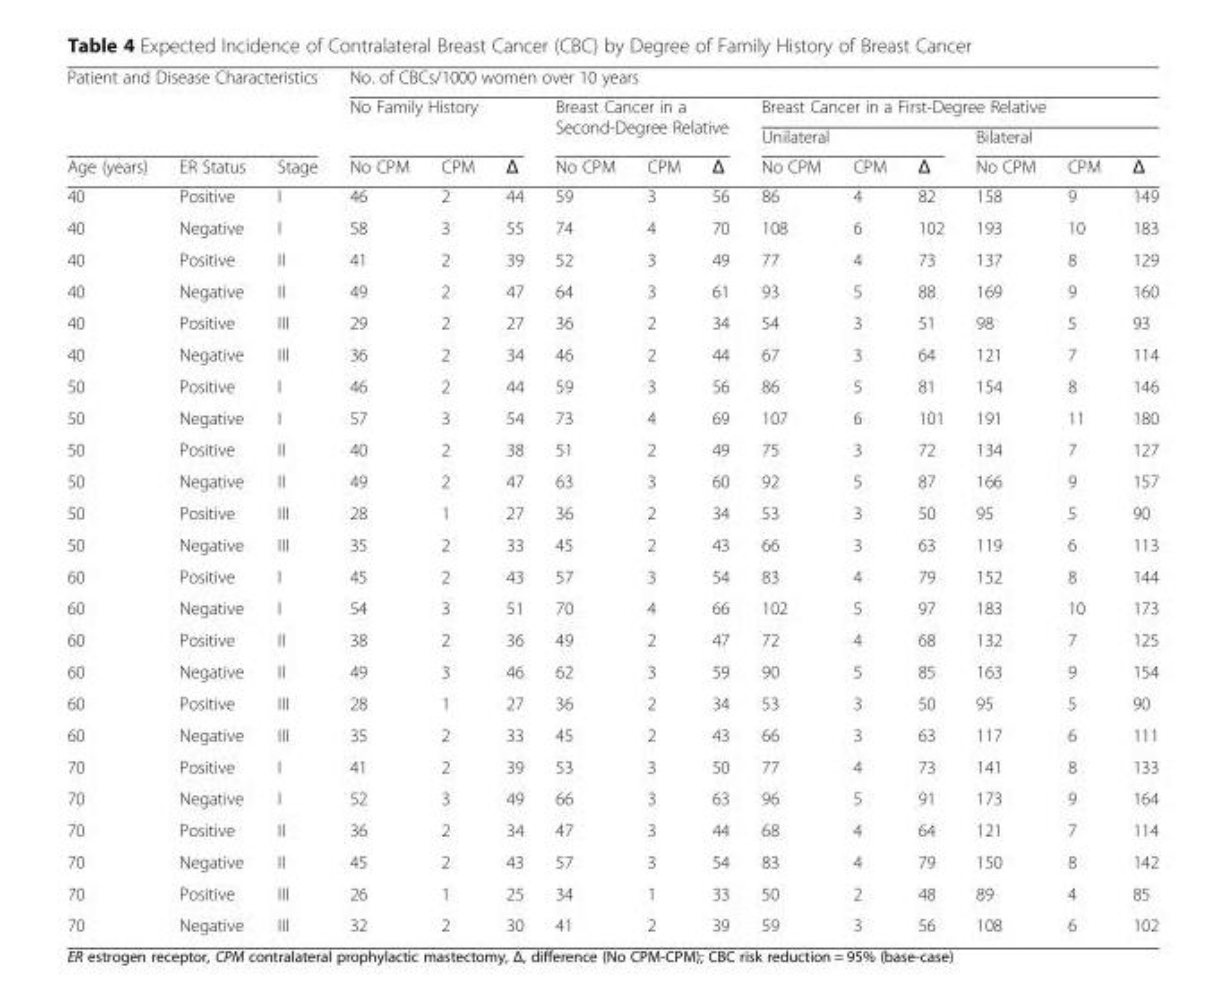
<table><thead><tr><td rowspan="3" colspan="3">Patient and Disease Characteristics</td><td colspan="12">No. of CBCs/1000 women over 10 years</td></tr><tr><td rowspan="2" colspan="3">No Family History</td><td rowspan="2" colspan="3">Breast Cancer in a Second-Degree Relative</td><td colspan="6">Breast Cancer in a First-Degree Relative</td></tr><tr><td colspan="3">Unilateral</td><td colspan="3">Bilateral</td></tr><tr><td>Age (years)</td><td>ER Status</td><td>Stage</td><td>No CPM</td><td>CPM</td><td>Δ</td><td>No CPM</td><td>CPM</td><td>Δ</td><td>No CPM</td><td>CPM</td><td>Δ</td><td>No CPM</td><td>CPM</td><td>Δ</td></tr></thead><tbody><tr><td>40</td><td>Positive</td><td>I</td><td>46</td><td>2</td><td>44</td><td>59</td><td>3</td><td>56</td><td>86</td><td>4</td><td>82</td><td>158</td><td>9</td><td>149</td></tr><tr><td>40</td><td>Negative</td><td>I</td><td>58</td><td>3</td><td>55</td><td>74</td><td>4</td><td>70</td><td>108</td><td>6</td><td>102</td><td>193</td><td>10</td><td>183</td></tr><tr><td>40</td><td>Positive</td><td>II</td><td>41</td><td>2</td><td>39</td><td>52</td><td>3</td><td>49</td><td>77</td><td>4</td><td>73</td><td>137</td><td>8</td><td>129</td></tr><tr><td>40</td><td>Negative</td><td>II</td><td>49</td><td>2</td><td>47</td><td>64</td><td>3</td><td>61</td><td>93</td><td>5</td><td>88</td><td>169</td><td>9</td><td>160</td></tr><tr><td>40</td><td>Positive</td><td>III</td><td>29</td><td>2</td><td>27</td><td>36</td><td>2</td><td>34</td><td>54</td><td>3</td><td>51</td><td>98</td><td>5</td><td>93</td></tr><tr><td>40</td><td>Negative</td><td>III</td><td>36</td><td>2</td><td>34</td><td>46</td><td>2</td><td>44</td><td>67</td><td>3</td><td>64</td><td>121</td><td>7</td><td>114</td></tr><tr><td>50</td><td>Positive</td><td>I</td><td>46</td><td>2</td><td>44</td><td>59</td><td>3</td><td>56</td><td>86</td><td>5</td><td>81</td><td>154</td><td>8</td><td>146</td></tr><tr><td>50</td><td>Negative</td><td>I</td><td>57</td><td>3</td><td>54</td><td>73</td><td>4</td><td>69</td><td>107</td><td>6</td><td>101</td><td>191</td><td>11</td><td>180</td></tr><tr><td>50</td><td>Positive</td><td>II</td><td>40</td><td>2</td><td>38</td><td>51</td><td>2</td><td>49</td><td>75</td><td>3</td><td>72</td><td>134</td><td>7</td><td>127</td></tr><tr><td>50</td><td>Negative</td><td>II</td><td>49</td><td>2</td><td>47</td><td>63</td><td>3</td><td>60</td><td>92</td><td>5</td><td>87</td><td>166</td><td>9</td><td>157</td></tr><tr><td>50</td><td>Positive</td><td>III</td><td>28</td><td>1</td><td>27</td><td>36</td><td>2</td><td>34</td><td>53</td><td>3</td><td>50</td><td>95</td><td>5</td><td>90</td></tr><tr><td>50</td><td>Negative</td><td>III</td><td>35</td><td>2</td><td>33</td><td>45</td><td>2</td><td>43</td><td>66</td><td>3</td><td>63</td><td>119</td><td>6</td><td>113</td></tr><tr><td>60</td><td>Positive</td><td>I</td><td>45</td><td>2</td><td>43</td><td>57</td><td>3</td><td>54</td><td>83</td><td>4</td><td>79</td><td>152</td><td>8</td><td>144</td></tr><tr><td>60</td><td>Negative</td><td>I</td><td>54</td><td>3</td><td>51</td><td>70</td><td>4</td><td>66</td><td>102</td><td>5</td><td>97</td><td>183</td><td>10</td><td>173</td></tr><tr><td>60</td><td>Positive</td><td>II</td><td>38</td><td>2</td><td>36</td><td>49</td><td>2</td><td>47</td><td>72</td><td>4</td><td>68</td><td>132</td><td>7</td><td>125</td></tr><tr><td>60</td><td>Negative</td><td>II</td><td>49</td><td>3</td><td>46</td><td>62</td><td>3</td><td>59</td><td>90</td><td>5</td><td>85</td><td>163</td><td>9</td><td>154</td></tr><tr><td>60</td><td>Positive</td><td>III</td><td>28</td><td>1</td><td>27</td><td>36</td><td>2</td><td>34</td><td>53</td><td>3</td><td>50</td><td>95</td><td>5</td><td>90</td></tr><tr><td>60</td><td>Negative</td><td>III</td><td>35</td><td>2</td><td>33</td><td>45</td><td>2</td><td>43</td><td>66</td><td>3</td><td>63</td><td>117</td><td>6</td><td>111</td></tr><tr><td>70</td><td>Positive</td><td>I</td><td>41</td><td>2</td><td>39</td><td>53</td><td>3</td><td>50</td><td>77</td><td>4</td><td>73</td><td>141</td><td>8</td><td>133</td></tr><tr><td>70</td><td>Negative</td><td>I</td><td>52</td><td>3</td><td>49</td><td>66</td><td>3</td><td>63</td><td>96</td><td>5</td><td>91</td><td>173</td><td>9</td><td>164</td></tr><tr><td>70</td><td>Positive</td><td>II</td><td>36</td><td>2</td><td>34</td><td>47</td><td>3</td><td>44</td><td>68</td><td>4</td><td>64</td><td>121</td><td>7</td><td>114</td></tr><tr><td>70</td><td>Negative</td><td>II</td><td>45</td><td>2</td><td>43</td><td>57</td><td>3</td><td>54</td><td>83</td><td>4</td><td>79</td><td>150</td><td>8</td><td>142</td></tr><tr><td>70</td><td>Positive</td><td>III</td><td>26</td><td>1</td><td>25</td><td>34</td><td>1</td><td>33</td><td>50</td><td>2</td><td>48</td><td>89</td><td>4</td><td>85</td></tr><tr><td>70</td><td>Negative</td><td>III</td><td>32</td><td>2</td><td>30</td><td>41</td><td>2</td><td>39</td><td>59</td><td>3</td><td>56</td><td>108</td><td>6</td><td>102</td></tr></tbody></table>